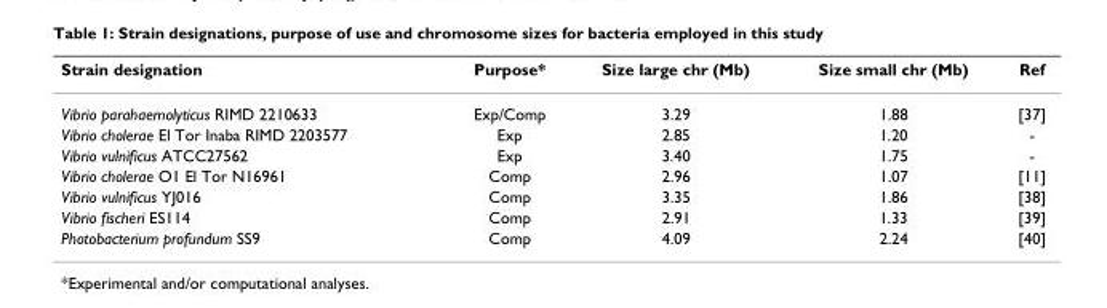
<table><thead><tr><td>Strain designation</td><td>Purpose*</td><td>Size large chr (Mb)</td><td>Size small chr (Mb)</td><td>Ref</td></tr></thead><tbody><tr><td>Vibrio parahaemolyticus RIMD 2210633</td><td>Exp/Comp</td><td>3.29</td><td>1.88</td><td>[37]</td></tr><tr><td>Vibrio cholerae El Tor Inaba RIMD 2203577</td><td>Exp</td><td>2.85</td><td>1.20</td><td>-</td></tr><tr><td>Vibrio vulnificus ATCC27562</td><td>Exp</td><td>3.40</td><td>1.75</td><td>-</td></tr><tr><td>Vibrio cholerae O1 El Tor N16961</td><td>Comp</td><td>2.96</td><td>1.07</td><td>[11]</td></tr><tr><td>Vibrio vulnificus YJ016</td><td>Comp</td><td>3.35</td><td>1.86</td><td>[38]</td></tr><tr><td>Vibrio fischeri ES114</td><td>Comp</td><td>2.91</td><td>1.33</td><td>[39]</td></tr><tr><td>Photobacterium profundum SS9</td><td>Comp</td><td>4.09</td><td>2.24</td><td>[40]</td></tr></tbody></table>